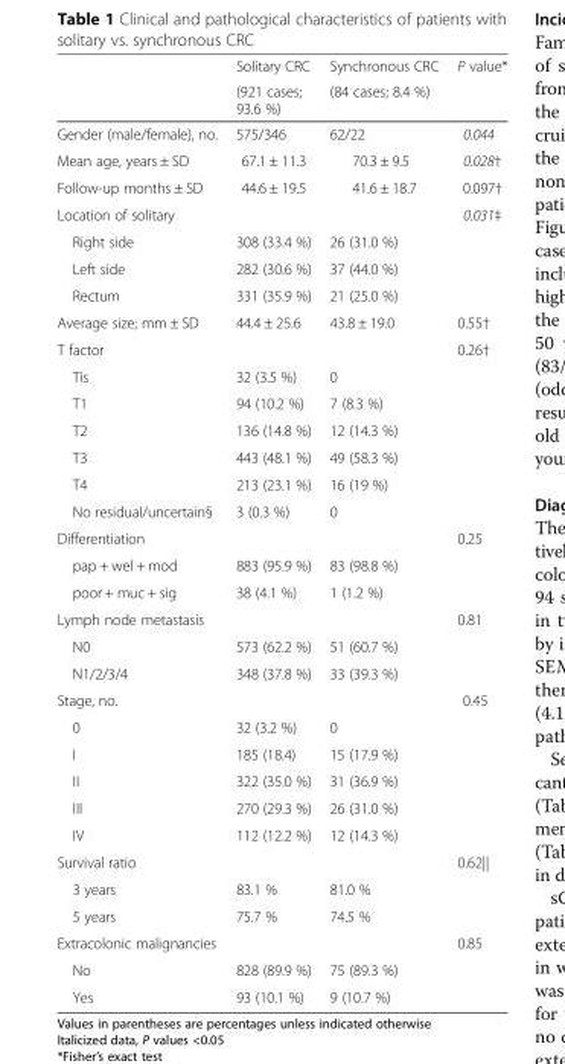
<table><thead><tr><td rowspan="2"></td><td rowspan="2">Solitary CRC (921 cases; 93.6 %)</td><td rowspan="2">Synchronous CRC (84 cases; 8.4 %)</td><td rowspan="2">P value*</td></tr><tr></tr></thead><tbody><tr><td>Gender (male/female), no.</td><td>575/346</td><td>62/22</td><td>0.044</td></tr><tr><td>Mean age, years ± SD</td><td>67.1 ± 11.3</td><td>70.3 ± 9.5</td><td>0.028†</td></tr><tr><td>Follow-up months ± SD</td><td>44.6 ± 19.5</td><td>41.6 ± 18.7</td><td>0.097†</td></tr><tr><td>Location of solitary</td><td></td><td></td><td>0.031‡</td></tr><tr><td>Right side</td><td>308 (33.4 %)</td><td>26 (31.0 %)</td><td></td></tr><tr><td>Left side</td><td>282 (30.6 %)</td><td>37 (44.0 %)</td><td></td></tr><tr><td>Rectum</td><td>331 (35.9 %)</td><td>21 (25.0 %)</td><td></td></tr><tr><td>Average size; mm ± SD</td><td>44.4 ± 25.6</td><td>43.8 ± 19.0</td><td>0.55†</td></tr><tr><td>T factor</td><td></td><td></td><td>0.26†</td></tr><tr><td>Tis</td><td>32 (3.5 %)</td><td>0</td><td></td></tr><tr><td>T1</td><td>94 (10.2 %)</td><td>7 (8.3 %)</td><td></td></tr><tr><td>T2</td><td>136 (14.8 %)</td><td>12 (14.3 %)</td><td></td></tr><tr><td>T3</td><td>443 (48.1 %)</td><td>49 (58.3 %)</td><td></td></tr><tr><td>T4</td><td>213 (23.1 %)</td><td>16 (19 %)</td><td></td></tr><tr><td>No residual/uncertain§</td><td>3 (0.3 %)</td><td>0</td><td></td></tr><tr><td>Differentiation</td><td></td><td></td><td>0.25</td></tr><tr><td>pap + wel + mod</td><td>883 (95.9 %)</td><td>83 (98.8 %)</td><td></td></tr><tr><td>poor + muc + sig</td><td>38 (4.1 %)</td><td>1 (1.2 %)</td><td></td></tr><tr><td>Lymph node metastasis</td><td></td><td></td><td>0.81</td></tr><tr><td>N0</td><td>573 (62.2 %)</td><td>51 (60.7 %)</td><td></td></tr><tr><td>N1/2/3/4</td><td>348 (37.8 %)</td><td>33 (39.3 %)</td><td></td></tr><tr><td>Stage, no.</td><td></td><td></td><td>0.45</td></tr><tr><td>0</td><td>32 (3.2 %)</td><td>0</td><td></td></tr><tr><td>I</td><td>185 (18.4)</td><td>15 (17.9 %)</td><td></td></tr><tr><td>II</td><td>322 (35.0 %)</td><td>31 (36.9 %)</td><td></td></tr><tr><td>III</td><td>270 (29.3 %)</td><td>26 (31.0 %)</td><td></td></tr><tr><td>IV</td><td>112 (12.2 %)</td><td>12 (14.3 %)</td><td></td></tr><tr><td>Survival ratio</td><td></td><td></td><td>0.62||</td></tr><tr><td>3 years</td><td>83.1 %</td><td>81.0 %</td><td></td></tr><tr><td>5 years</td><td>75.7 %</td><td>74.5 %</td><td></td></tr><tr><td>Extracolonic malignancies</td><td></td><td></td><td>0.85</td></tr><tr><td>No</td><td>828 (89.9 %)</td><td>75 (89.3 %)</td><td></td></tr><tr><td>Yes</td><td>93 (10.1 %)</td><td>9 (10.7 %)</td><td></td></tr></tbody></table>